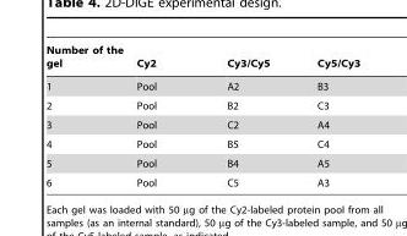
<table><thead><tr><td>Number of the gel</td><td>Cy2</td><td>Cy3/Cy5</td><td>Cy5/Cy3</td></tr></thead><tbody><tr><td>1</td><td>Pool</td><td>A2</td><td>B3</td></tr><tr><td>2</td><td>Pool</td><td>B2</td><td>C3</td></tr><tr><td>3</td><td>Pool</td><td>C2</td><td>A4</td></tr><tr><td>4</td><td>Pool</td><td>B5</td><td>C4</td></tr><tr><td>5</td><td>Pool</td><td>B4</td><td>A5</td></tr><tr><td>6</td><td>Pool</td><td>C5</td><td>A3</td></tr></tbody></table>